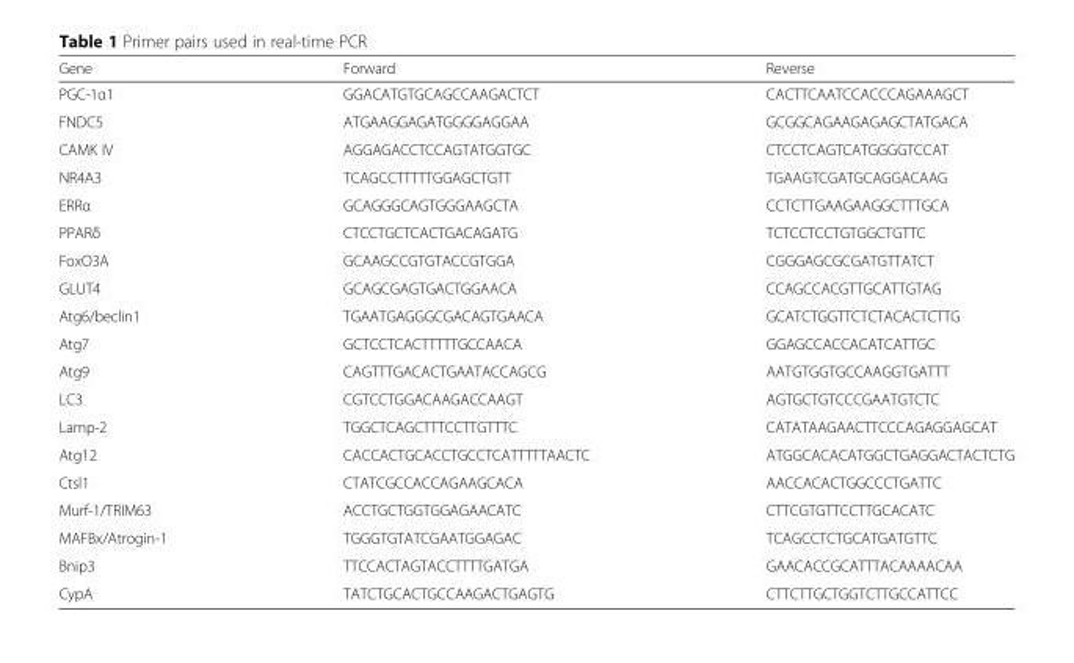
<table><thead><tr><td>Gene</td><td>Forward</td><td>Reverse</td></tr></thead><tbody><tr><td>PGC-1α1</td><td>GGACATGTGCAGCCAAGACTCT</td><td>CACTTCAATCCACCCAGAAAGCT</td></tr><tr><td>FNDC5</td><td>ATGAAGGAGATGGGGAGGAA</td><td>GCGGCAGAAGAGAGCTATGACA</td></tr><tr><td>CAMK IV</td><td>AGGAGACCTCCAGTATGGTGC</td><td>CTCCTCAGTCATGGGGTCCAT</td></tr><tr><td>NR4A3</td><td>TCAGCCTTTTTGGAGCTGTT</td><td>TGAAGTCGATGCAGGACAAG</td></tr><tr><td>ERRα</td><td>GCAGGGCAGTGGGAAGCTA</td><td>CCTCTTGAAGAAGGCTTTGCA</td></tr><tr><td>PPARδ</td><td>CTCCTGCTCACTGACAGATG</td><td>TCTCCTCCTGTGGCTGTTC</td></tr><tr><td>FoxO3A</td><td>GCAAGCCGTGTACCGTGGA</td><td>CGGGAGCGCGATGTTATCT</td></tr><tr><td>GLUT4</td><td>GCAGCGAGTGACTGGAACA</td><td>CCAGCCACGTTGCATTGTAG</td></tr><tr><td>Atg6/beclin1</td><td>TGAATGAGGGCGACAGTGAACA</td><td>GCATCTGGTTCTCTACACTCTTG</td></tr><tr><td>Atg7</td><td>GCTCCTCACTTTTTGCCAACA</td><td>GGAGCCACCACATCATTGC</td></tr><tr><td>Atg9</td><td>CAGTTTGACACTGAATACCAGCG</td><td>AATGTGGTGCCAAGGTGATTT</td></tr><tr><td>LC3</td><td>CGTCCTGGACAAGACCAAGT</td><td>AGTGCTGTCCCGAATGTCTC</td></tr><tr><td>Lamp-2</td><td>TGGCTCAGCTTTCCTTGTTTC</td><td>CATATAAGAACTTCCCAGAGGAGCAT</td></tr><tr><td>Atg12</td><td>CACCACTGCACCTGCCTCATTTTTAACTC</td><td>ATGGCACACATGGCTGAGGACTACTCTG</td></tr><tr><td>Ctsl1</td><td>CTATCGCCACCAGAAGCACA</td><td>AACCACACTGGCCCTGATTC</td></tr><tr><td>Murf-1/TRIM63</td><td>ACCTGCTGGTGGAGAACATC</td><td>CTTCGTGTTCCTTGCACATC</td></tr><tr><td>MAFBx/Atrogin-1</td><td>TGGGTGTATCGAATGGAGAC</td><td>TCAGCCTCTGCATGATGTTC</td></tr><tr><td>Bnip3</td><td>TTCCACTAGTACCTTTTGATGA</td><td>GAACACCGCATTTACAAAACAA</td></tr><tr><td>CypA</td><td>TATCTGCACTGCCAAGACTGAGTG</td><td>CTTCTTGCTGGTCTTGCCATTCC</td></tr></tbody></table>